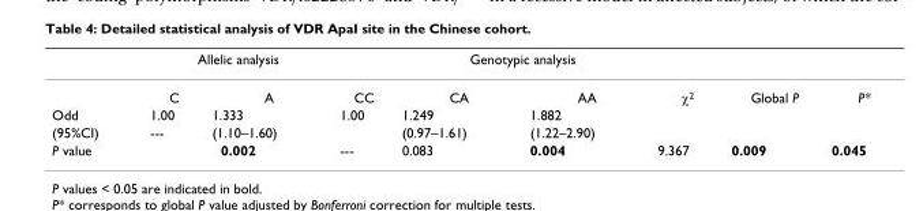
<table><thead><tr><td rowspan="2"></td><td colspan="2">Allelic analysis</td><td rowspan="2">CC</td><td colspan="2">Genotypic analysis</td><td rowspan="2">χ<sup>2</sup></td><td rowspan="2">Global P</td><td rowspan="2">P*</td></tr><tr><td>C</td><td>A</td><td>CA</td><td>AA</td></tr></thead><tbody><tr><td>Odd</td><td>1.00</td><td>1.333</td><td>1.00</td><td>1.249</td><td>1.882</td><td></td><td></td><td></td></tr><tr><td>(95%CI)</td><td>---</td><td>(1.10–1.60)</td><td></td><td>(0.97–1.61)</td><td>(1.22–2.90)</td><td></td><td></td><td></td></tr><tr><td>P value</td><td colspan="2">0.002</td><td>---</td><td>0.083</td><td>0.004</td><td>9.367</td><td>0.009</td><td>0.045</td></tr></tbody></table>